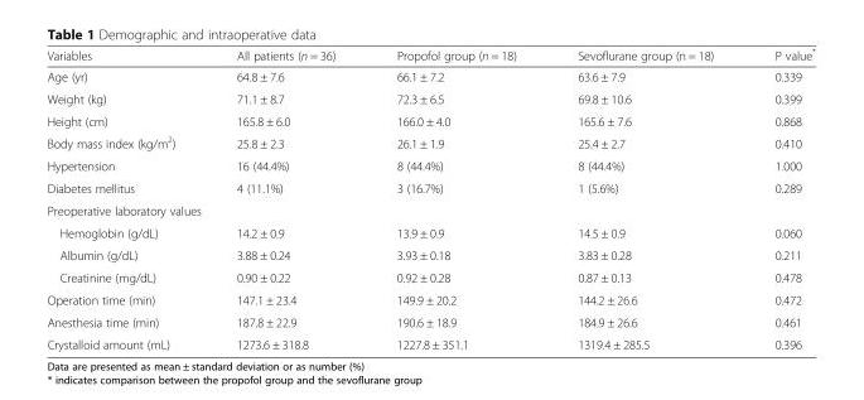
<table><thead><tr><td>Variables</td><td>All patients (n = 36)</td><td>Propofol group (n = 18)</td><td>Sevoflurane group (n = 18)</td><td>P value*</td></tr></thead><tbody><tr><td>Age (yr)</td><td>64.8 ± 7.6</td><td>66.1 ± 7.2</td><td>63.6 ± 7.9</td><td>0.339</td></tr><tr><td>Weight (kg)</td><td>71.1 ± 8.7</td><td>72.3 ± 6.5</td><td>69.8 ± 10.6</td><td>0.399</td></tr><tr><td>Height (cm)</td><td>165.8 ± 6.0</td><td>166.0 ± 4.0</td><td>165.6 ± 7.6</td><td>0.868</td></tr><tr><td>Body mass index (kg/m<sup>2</sup>)</td><td>25.8 ± 2.3</td><td>26.1 ± 1.9</td><td>25.4 ± 2.7</td><td>0.410</td></tr><tr><td>Hypertension</td><td>16 (44.4%)</td><td>8 (44.4%)</td><td>8 (44.4%)</td><td>1.000</td></tr><tr><td>Diabetes mellitus</td><td>4 (11.1%)</td><td>3 (16.7%)</td><td>1 (5.6%)</td><td>0.289</td></tr><tr><td colspan="5">Preoperative laboratory values</td></tr><tr><td>Hemoglobin (g/dL)</td><td>14.2 ± 0.9</td><td>13.9 ± 0.9</td><td>14.5 ± 0.9</td><td>0.060</td></tr><tr><td>Albumin (g/dL)</td><td>3.88 ± 0.24</td><td>3.93 ± 0.18</td><td>3.83 ± 0.28</td><td>0.211</td></tr><tr><td>Creatinine (mg/dL)</td><td>0.90 ± 0.22</td><td>0.92 ± 0.28</td><td>0.87 ± 0.13</td><td>0.478</td></tr><tr><td>Operation time (min)</td><td>147.1 ± 23.4</td><td>149.9 ± 20.2</td><td>144.2 ± 26.6</td><td>0.472</td></tr><tr><td>Anesthesia time (min)</td><td>187.8 ± 22.9</td><td>190.6 ± 18.9</td><td>184.9 ± 26.6</td><td>0.461</td></tr><tr><td>Crystalloid amount (mL)</td><td>1273.6 ± 318.8</td><td>1227.8 ± 351.1</td><td>1319.4 ± 285.5</td><td>0.396</td></tr></tbody></table>